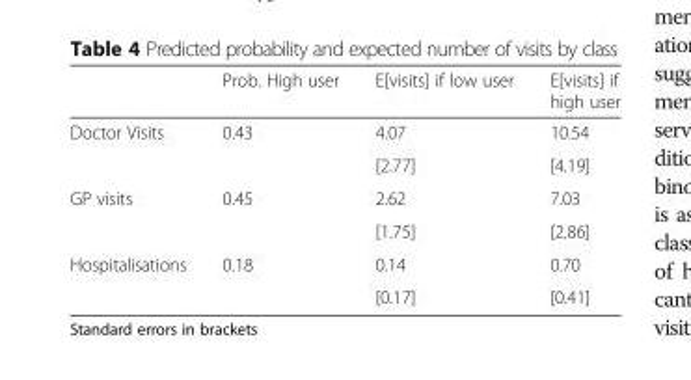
<table><thead><tr><td></td><td>Prob. High user</td><td>E[visits] if low user</td><td>E[visits] if high user</td></tr></thead><tbody><tr><td rowspan="2">Doctor Visits</td><td rowspan="2">0.43</td><td>4.07</td><td>10.54</td></tr><tr><td>[2.77]</td><td>[4.19]</td></tr><tr><td rowspan="2">GP visits</td><td rowspan="2">0.45</td><td>2.62</td><td>7.03</td></tr><tr><td>[1.75]</td><td>[2.86]</td></tr><tr><td rowspan="2">Hospitalisations</td><td rowspan="2">0.18</td><td>0.14</td><td>0.70</td></tr><tr><td>[0.17]</td><td>[0.41]</td></tr></tbody></table>